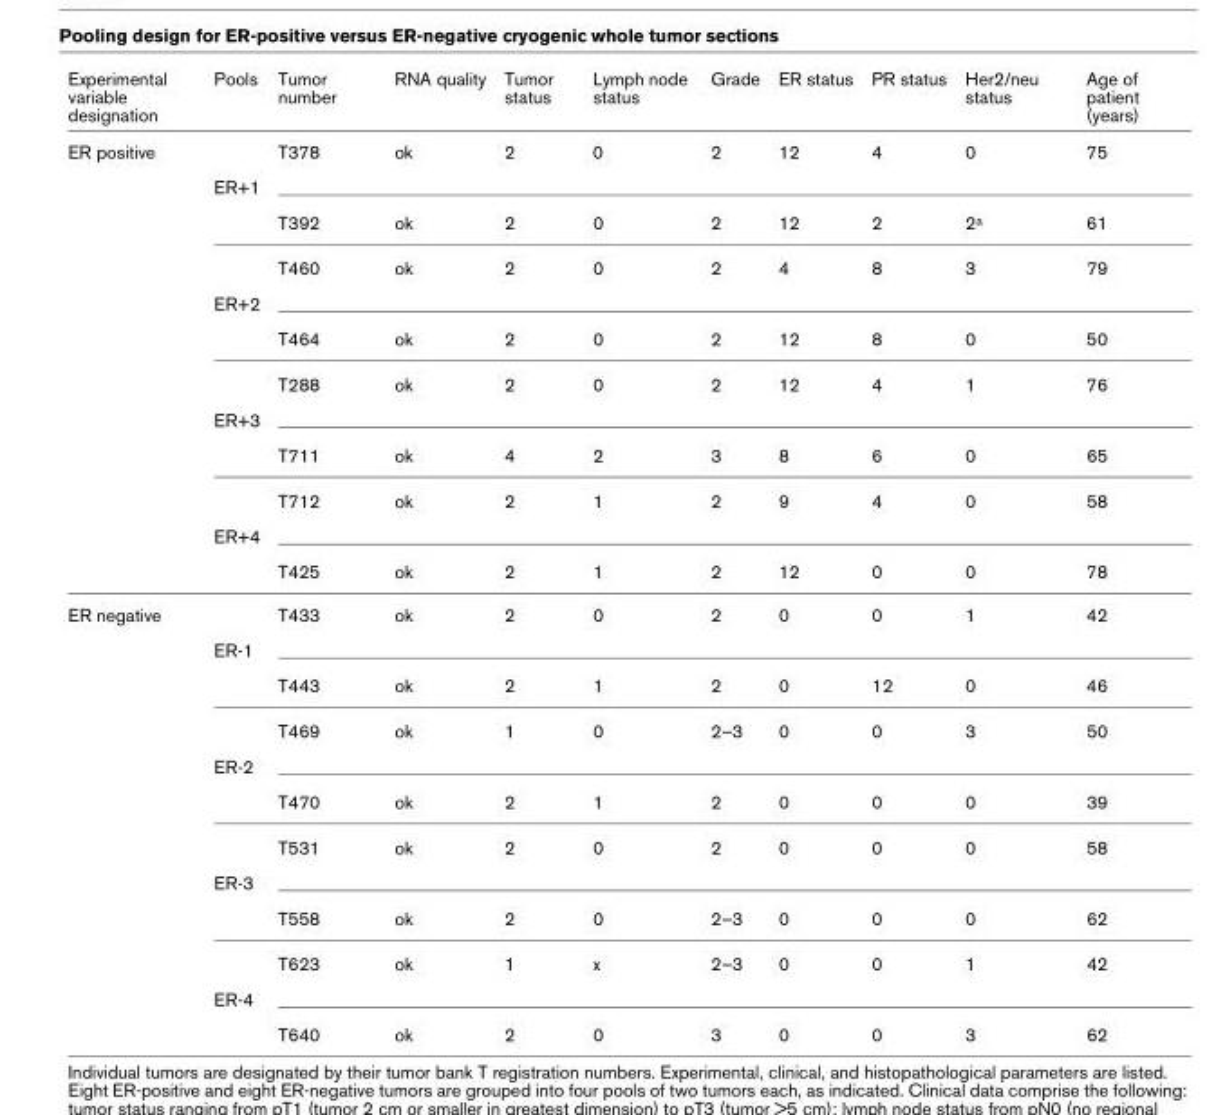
<table><thead><tr><td>Experimental variable designation</td><td>Pools</td><td>Tumor number</td><td>RNA quality</td><td>Tumor status</td><td>Lymph node status</td><td>Grade</td><td>ER status</td><td>PR status</td><td>Her2/neu status</td><td>Age of patient (years)</td></tr></thead><tbody><tr><td rowspan="12">ER positive</td><td></td><td>T378</td><td>ok</td><td>2</td><td>0</td><td>2</td><td>12</td><td>4</td><td>0</td><td>75</td></tr><tr><td>ER+1</td><td colspan="9"></td></tr><tr><td></td><td>T392</td><td>ok</td><td>2</td><td>0</td><td>2</td><td>12</td><td>2</td><td>2<sup>a</sup></td><td>61</td></tr><tr><td></td><td>T460</td><td>ok</td><td>2</td><td>0</td><td>2</td><td>4</td><td>8</td><td>3</td><td>79</td></tr><tr><td>ER+2</td><td colspan="9"></td></tr><tr><td></td><td>T464</td><td>ok</td><td>2</td><td>0</td><td>2</td><td>12</td><td>8</td><td>0</td><td>50</td></tr><tr><td></td><td>T288</td><td>ok</td><td>2</td><td>0</td><td>2</td><td>12</td><td>4</td><td>1</td><td>76</td></tr><tr><td>ER+3</td><td colspan="9"></td></tr><tr><td></td><td>T711</td><td>ok</td><td>4</td><td>2</td><td>3</td><td>8</td><td>6</td><td>0</td><td>65</td></tr><tr><td></td><td>T712</td><td>ok</td><td>2</td><td>1</td><td>2</td><td>9</td><td>4</td><td>0</td><td>58</td></tr><tr><td>ER+4</td><td colspan="9"></td></tr><tr><td></td><td>T425</td><td>ok</td><td>2</td><td>1</td><td>2</td><td>12</td><td>0</td><td>0</td><td>78</td></tr><tr><td rowspan="12">ER negative</td><td></td><td>T433</td><td>ok</td><td>2</td><td>0</td><td>2</td><td>0</td><td>0</td><td>1</td><td>42</td></tr><tr><td>ER-1</td><td colspan="9"></td></tr><tr><td></td><td>T443</td><td>ok</td><td>2</td><td>1</td><td>2</td><td>0</td><td>12</td><td>0</td><td>46</td></tr><tr><td></td><td>T469</td><td>ok</td><td>1</td><td>0</td><td>2–3</td><td>0</td><td>0</td><td>3</td><td>50</td></tr><tr><td>ER-2</td><td colspan="9"></td></tr><tr><td></td><td>T470</td><td>ok</td><td>2</td><td>1</td><td>2</td><td>0</td><td>0</td><td>0</td><td>39</td></tr><tr><td></td><td>T531</td><td>ok</td><td>2</td><td>0</td><td>2</td><td>0</td><td>0</td><td>0</td><td>58</td></tr><tr><td>ER-3</td><td colspan="9"></td></tr><tr><td></td><td>T558</td><td>ok</td><td>2</td><td>0</td><td>2–3</td><td>0</td><td>0</td><td>0</td><td>62</td></tr><tr><td></td><td>T623</td><td>ok</td><td>1</td><td>x</td><td>2–3</td><td>0</td><td>0</td><td>1</td><td>42</td></tr><tr><td>ER-4</td><td colspan="9"></td></tr><tr><td></td><td>T640</td><td>ok</td><td>2</td><td>0</td><td>3</td><td>0</td><td>0</td><td>3</td><td>62</td></tr></tbody></table>